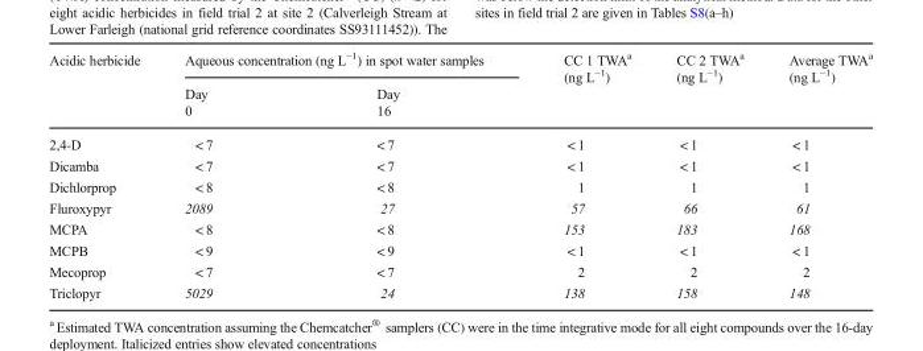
<table><thead><tr><td rowspan="2">Acidic herbicide</td><td colspan="2">Aqueous concentration (ng L<sup>−1</sup>) in spot water samples</td><td rowspan="2">CC 1 TWA<sup>a</sup> (ng L<sup>−1</sup>)</td><td rowspan="2">CC 2 TWA<sup>a</sup> (ng L<sup>−1</sup>)</td><td rowspan="2">Average TWA<sup>a</sup> (ng L<sup>−1</sup>)</td></tr><tr><td>Day 0</td><td>Day 16</td></tr></thead><tbody><tr><td>2,4-D</td><td>&lt; 7</td><td>&lt; 7</td><td>&lt; 1</td><td>&lt; 1</td><td>&lt; 1</td></tr><tr><td>Dicamba</td><td>&lt; 7</td><td>&lt; 7</td><td>&lt; 1</td><td>&lt; 1</td><td>&lt; 1</td></tr><tr><td>Dichlorprop</td><td>&lt; 8</td><td>&lt; 8</td><td>1</td><td>1</td><td>1</td></tr><tr><td>Fluroxypyr</td><td>2089</td><td>27</td><td>57</td><td>66</td><td>61</td></tr><tr><td>MCPA</td><td>&lt; 8</td><td>&lt; 8</td><td>153</td><td>183</td><td>168</td></tr><tr><td>MCPB</td><td>&lt; 9</td><td>&lt; 9</td><td>&lt; 1</td><td>&lt; 1</td><td>&lt; 1</td></tr><tr><td>Mecoprop</td><td>&lt; 7</td><td>&lt; 7</td><td>2</td><td>2</td><td>2</td></tr><tr><td>Triclopyr</td><td>5029</td><td>24</td><td>138</td><td>158</td><td>148</td></tr></tbody></table>